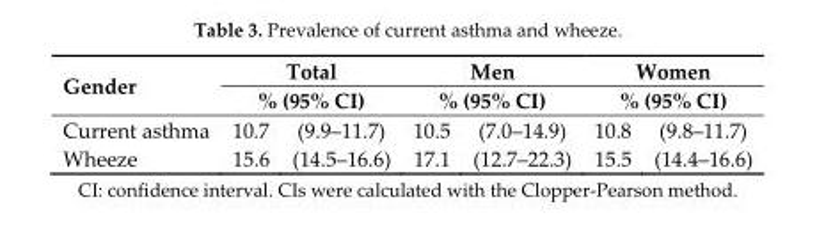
<table><thead><tr><td rowspan="3">Gender Current asthma</td><td rowspan="2" colspan="2">Total % (95% CI)</td><td rowspan="2" colspan="2">Men % (95% CI)</td><td rowspan="2" colspan="2">Women % (95% CI)</td></tr><tr></tr><tr><td>10.7</td><td>(9.9–11.7)</td><td>10.5</td><td>(7.0–14.9)</td><td>10.8</td><td>(9.8–11.7)</td></tr></thead><tbody><tr><td>Wheeze</td><td>15.6</td><td>(14.5–16.6)</td><td>17.1</td><td>(12.7–22.3)</td><td>15.5</td><td>(14.4–16.6)</td></tr></tbody></table>